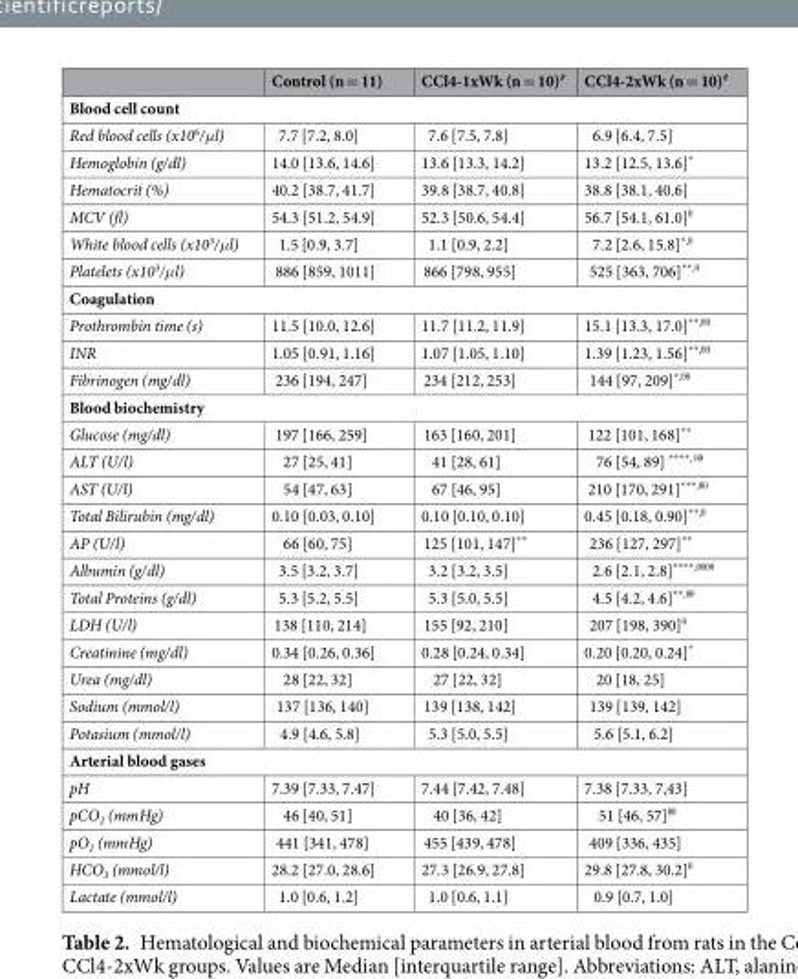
<table><thead><tr><td></td><td>Control (n = 11)</td><td>CCl4-1xWk (n = 10)<sup>#</sup></td><td>CCl4-2xWk (n = 10)<sup>#</sup></td></tr></thead><tbody><tr><td colspan="4">Blood cell count</td></tr><tr><td>Red blood cells (x10<sup>6</sup>/μl)</td><td>7.7 [7.2, 8.0]</td><td>7.6 [7.5, 7.8]</td><td>6.9 [6.4, 7.5]</td></tr><tr><td>Hemoglobin (g/dl)</td><td>14.0 [13.6, 14.6]</td><td>13.6 [13.3, 14.2]</td><td>13.2 [12.5, 13.6]*</td></tr><tr><td>Hematocrit (%)</td><td>40.2 [38.7, 41.7]</td><td>39.8 [38.7, 40.8]</td><td>38.8 [38.1, 40.6]</td></tr><tr><td>MCV (fl)</td><td>54.3 [51.2, 54.9]</td><td>52.3 [50.6, 54.4]</td><td>56.7 [54.1, 61.0]<sup>θ</sup></td></tr><tr><td>White blood cells (x10<sup>3</sup>/μl)</td><td>1.5 [0.9, 3.7]</td><td>1.1 [0.9, 2.2]</td><td>7.2 [2.6, 15.8]<sup>*,θ</sup></td></tr><tr><td>Platelets (x10<sup>3</sup>/μl)</td><td>886 [859, 1011]</td><td>866 [798, 955]</td><td>525 [363, 706]<sup>**,θ</sup></td></tr><tr><td colspan="4">Coagulation</td></tr><tr><td>Prothrombin time (s)</td><td>11.5 [10.0, 12.6]</td><td>11.7 [11.2, 11.9]</td><td>15.1 [13.3, 17.0]<sup>**,θθ</sup></td></tr><tr><td>INR</td><td>1.05 [0.91, 1.16]</td><td>1.07 [1.05, 1.10]</td><td>1.39 [1.23, 1.56]<sup>**,θθ</sup></td></tr><tr><td>Fibrinogen (mg/dl)</td><td>236 [194, 247]</td><td>234 [212, 253]</td><td>144 [97, 209]<sup>*,θθ</sup></td></tr><tr><td colspan="4">Blood biochemistry</td></tr><tr><td>Glucose (mg/dl)</td><td>197 [166, 259]</td><td>163 [160, 201]</td><td>122 [101, 168]**</td></tr><tr><td>ALT (U/l)</td><td>27 [25, 41]</td><td>41 [28, 61]</td><td>76 [54, 89] <sup>****, θθ</sup></td></tr><tr><td>AST (U/l)</td><td>54 [47, 63]</td><td>67 [46, 95]</td><td>210 [170, 291]<sup>***,θθ</sup></td></tr><tr><td>Total Bilirubin (mg/dl)</td><td>0.10 [0.03, 0.10]</td><td>0.10 [0.10, 0.10]</td><td>0.45 [0.18, 0.90]<sup>**,θ</sup></td></tr><tr><td>AP (U/l)</td><td>66 [60, 75]</td><td>125 [101, 147]**</td><td>236 [127, 297]**</td></tr><tr><td>Albumin (g/dl)</td><td>3.5 [3.2, 3.7]</td><td>3.2 [3.2, 3.5]</td><td>2.6 [2.1, 2.8]<sup>****,θθθθ</sup></td></tr><tr><td>Total Proteins (g/dl)</td><td>5.3 [5.2, 5.5]</td><td>5.3 [5.0, 5.5]</td><td>4.5 [4.2, 4.6]<sup>**,θθ</sup></td></tr><tr><td>LDH (U/l)</td><td>138 [110, 214]</td><td>155 [92, 210]</td><td>207 [198, 390]<sup>θ</sup></td></tr><tr><td>Creatinine (mg/dl)</td><td>0.34 [0.26, 0.36]</td><td>0.28 [0.24, 0.34]</td><td>0.20 [0.20, 0.24]*</td></tr><tr><td>Urea (mg/dl)</td><td>28 [22, 32]</td><td>27 [22, 32]</td><td>20 [18, 25]</td></tr><tr><td>Sodium (mmol/l)</td><td>137 [136, 140]</td><td>139 [138, 142]</td><td>139 [139, 142]</td></tr><tr><td>Potasium (mmol/l)</td><td>4.9 [4.6, 5.8]</td><td>5.3 [5.0, 5.5]</td><td>5.6 [5.1, 6.2]</td></tr><tr><td colspan="4">Arterial blood gases</td></tr><tr><td>pH</td><td>7.39 [7.33, 7.47]</td><td>7.44 [7.42, 7.48]</td><td>7.38 [7.33, 7,43]</td></tr><tr><td>pCO<sub>2</sub> (mmHg)</td><td>46 [40, 51]</td><td>40 [36, 42]</td><td>51 [46, 57]<sup>θθ</sup></td></tr><tr><td>pO<sub>2</sub> (mmHg)</td><td>441 [341, 478]</td><td>455 [439, 478]</td><td>409 [336, 435]</td></tr><tr><td>HCO<sub>3</sub> (mmol/l)</td><td>28.2 [27.0, 28.6]</td><td>27.3 [26.9, 27.8]</td><td>29.8 [27.8, 30.2]<sup>θ</sup></td></tr><tr><td>Lactate (mmol/l)</td><td>1.0 [0.6, 1.2]</td><td>1.0 [0.6, 1.1]</td><td>0.9 [0.7, 1.0]</td></tr></tbody></table>